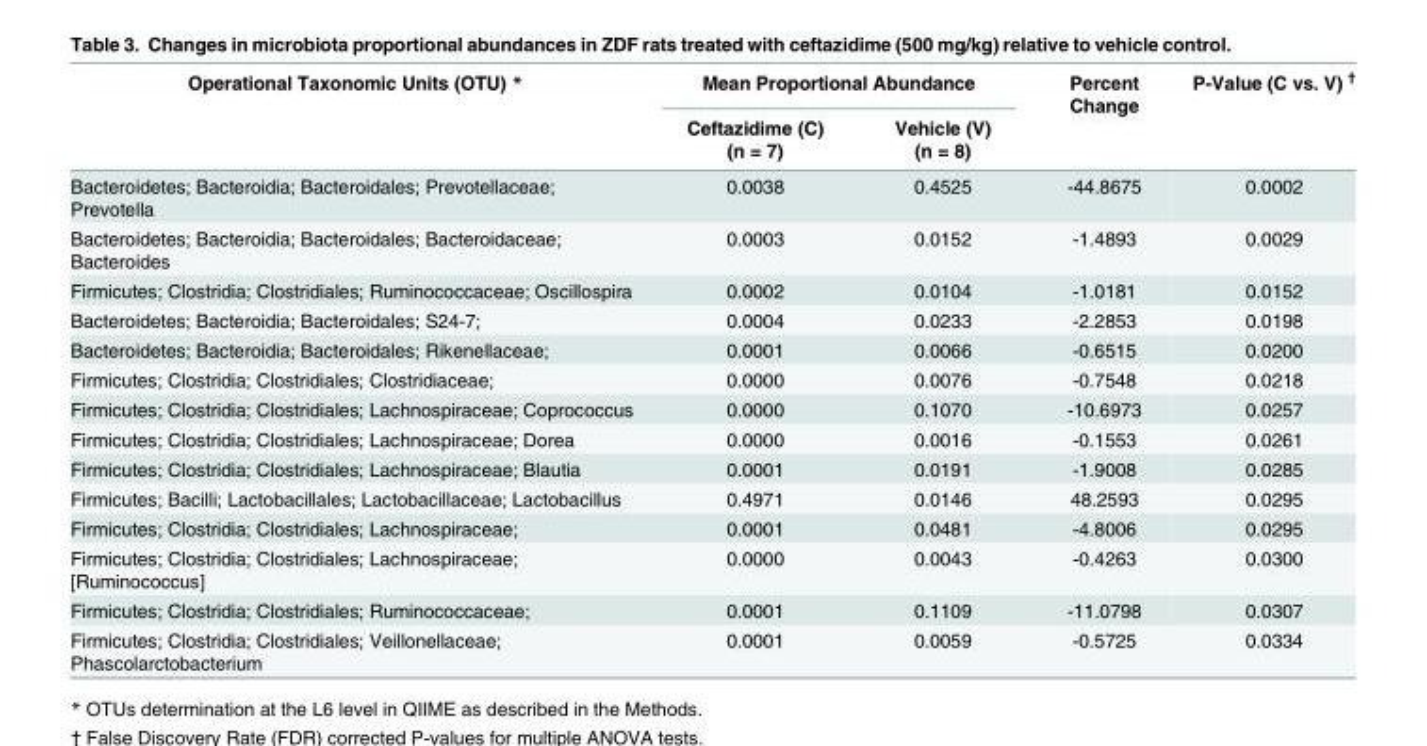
<table><thead><tr><td rowspan="2">Operational Taxonomic Units (OTU) *</td><td colspan="2">Mean Proportional Abundance</td><td rowspan="2">Percent Change</td><td rowspan="2">P-Value (C vs. V) <sup>†</sup></td></tr><tr><td>Ceftazidime (C) (n = 7)</td><td>Vehicle (V) (n = 8)</td></tr></thead><tbody><tr><td>Bacteroidetes; Bacteroidia; Bacteroidales; Prevotellaceae; Prevotella</td><td>0.0038</td><td>0.4525</td><td>-44.8675</td><td>0.0002</td></tr><tr><td>Bacteroidetes; Bacteroidia; Bacteroidales; Bacteroidaceae; Bacteroides</td><td>0.0003</td><td>0.0152</td><td>-1.4893</td><td>0.0029</td></tr><tr><td>Firmicutes; Clostridia; Clostridiales; Ruminococcaceae; Oscillospira</td><td>0.0002</td><td>0.0104</td><td>-1.0181</td><td>0.0152</td></tr><tr><td>Bacteroidetes; Bacteroidia; Bacteroidales; S24-7;</td><td>0.0004</td><td>0.0233</td><td>-2.2853</td><td>0.0198</td></tr><tr><td>Bacteroidetes; Bacteroidia; Bacteroidales; Rikenellaceae;</td><td>0.0001</td><td>0.0066</td><td>-0.6515</td><td>0.0200</td></tr><tr><td>Firmicutes; Clostridia; Clostridiales; Clostridiaceae;</td><td>0.0000</td><td>0.0076</td><td>-0.7548</td><td>0.0218</td></tr><tr><td>Firmicutes; Clostridia; Clostridiales; Lachnospiraceae; Coprococcus</td><td>0.0000</td><td>0.1070</td><td>-10.6973</td><td>0.0257</td></tr><tr><td>Firmicutes; Clostridia; Clostridiales; Lachnospiraceae; Dorea</td><td>0.0000</td><td>0.0016</td><td>-0.1553</td><td>0.0261</td></tr><tr><td>Firmicutes; Clostridia; Clostridiales; Lachnospiraceae; Blautia</td><td>0.0001</td><td>0.0191</td><td>-1.9008</td><td>0.0285</td></tr><tr><td>Firmicutes; Bacilli; Lactobacillales; Lactobacillaceae; Lactobacillus</td><td>0.4971</td><td>0.0146</td><td>48.2593</td><td>0.0295</td></tr><tr><td>Firmicutes; Clostridia; Clostridiales; Lachnospiraceae;</td><td>0.0001</td><td>0.0481</td><td>-4.8006</td><td>0.0295</td></tr><tr><td>Firmicutes; Clostridia; Clostridiales; Lachnospiraceae; [Ruminococcus]</td><td>0.0000</td><td>0.0043</td><td>-0.4263</td><td>0.0300</td></tr><tr><td>Firmicutes; Clostridia; Clostridiales; Ruminococcaceae;</td><td>0.0001</td><td>0.1109</td><td>-11.0798</td><td>0.0307</td></tr><tr><td>Firmicutes; Clostridia; Clostridiales; Veillonellaceae; Phascolarctobacterium</td><td>0.0001</td><td>0.0059</td><td>-0.5725</td><td>0.0334</td></tr></tbody></table>